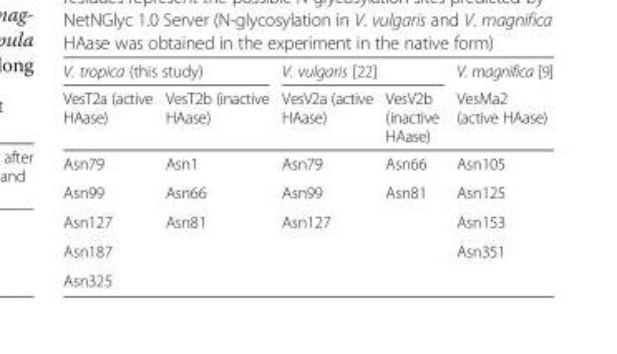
<table><thead><tr><td colspan="2">V. tropica (this study)</td><td colspan="2">V. vulgaris [22]</td><td rowspan="2">V. magnifica [9] VesMa2 (active HAase)</td></tr><tr><td>VesT2a (active HAase)</td><td>VesT2b (inactive HAase)</td><td>VesV2a (active HAase)</td><td>VesV2b (inactive HAase)</td></tr></thead><tbody><tr><td>Asn79</td><td>Asn1</td><td>Asn79</td><td>Asn66</td><td>Asn105</td></tr><tr><td>Asn99</td><td>Asn66</td><td>Asn99</td><td>Asn81</td><td>Asn125</td></tr><tr><td>Asn127</td><td>Asn81</td><td>Asn127</td><td></td><td>Asn153</td></tr><tr><td>Asn187</td><td></td><td></td><td></td><td>Asn351</td></tr><tr><td>Asn325</td><td></td><td></td><td></td><td></td></tr></tbody></table>